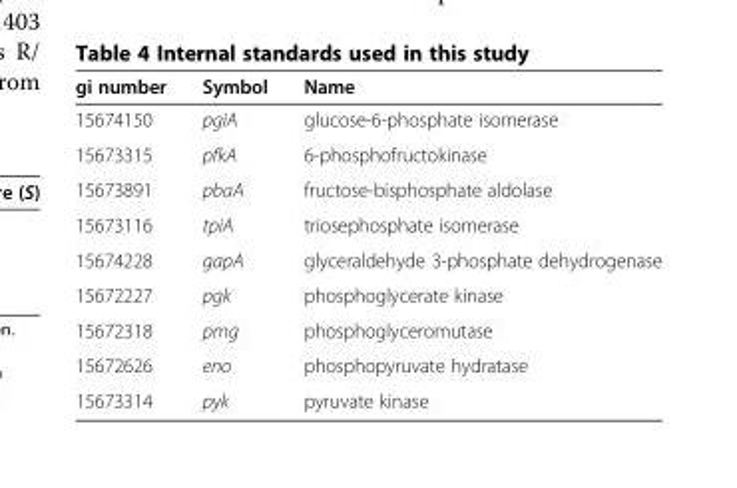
<table><thead><tr><td>gi number</td><td>Symbol</td><td>Name</td></tr></thead><tbody><tr><td>15674150</td><td>pgiA</td><td>glucose-6-phosphate isomerase</td></tr><tr><td>15673315</td><td>pfkA</td><td>6-phosphofructokinase</td></tr><tr><td>15673891</td><td>pbaA</td><td>fructose-bisphosphate aldolase</td></tr><tr><td>15673116</td><td>tpiA</td><td>triosephosphate isomerase</td></tr><tr><td>15674228</td><td>gapA</td><td>glyceraldehyde 3-phosphate dehydrogenase</td></tr><tr><td>15672227</td><td>pgk</td><td>phosphoglycerate kinase</td></tr><tr><td>15672318</td><td>pmg</td><td>phosphoglyceromutase</td></tr><tr><td>15672626</td><td>eno</td><td>phosphopyruvate hydratase</td></tr><tr><td>15673314</td><td>pyk</td><td>pyruvate kinase</td></tr></tbody></table>